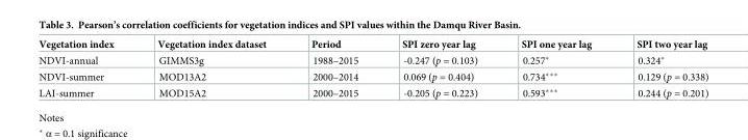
<table><thead><tr><td>Vegetation index</td><td>Vegetation index dataset</td><td>Period</td><td>SPI zero year lag</td><td>SPI one year lag</td><td>SPI two year lag</td></tr></thead><tbody><tr><td>NDVI-annual</td><td>GIMMS3g</td><td>1988–2015</td><td>-0.247 (p = 0.103)</td><td>0.257*</td><td>0.324*</td></tr><tr><td>NDVI-summer</td><td>MOD13A2</td><td>2000–2014</td><td>0.069 (p = 0.404)</td><td>0.734***</td><td>0.129 (p = 0.338)</td></tr><tr><td>LAI-summer</td><td>MOD15A2</td><td>2000–2015</td><td>-0.205 (p = 0.223)</td><td>0.593***</td><td>0.244 (p = 0.201)</td></tr></tbody></table>